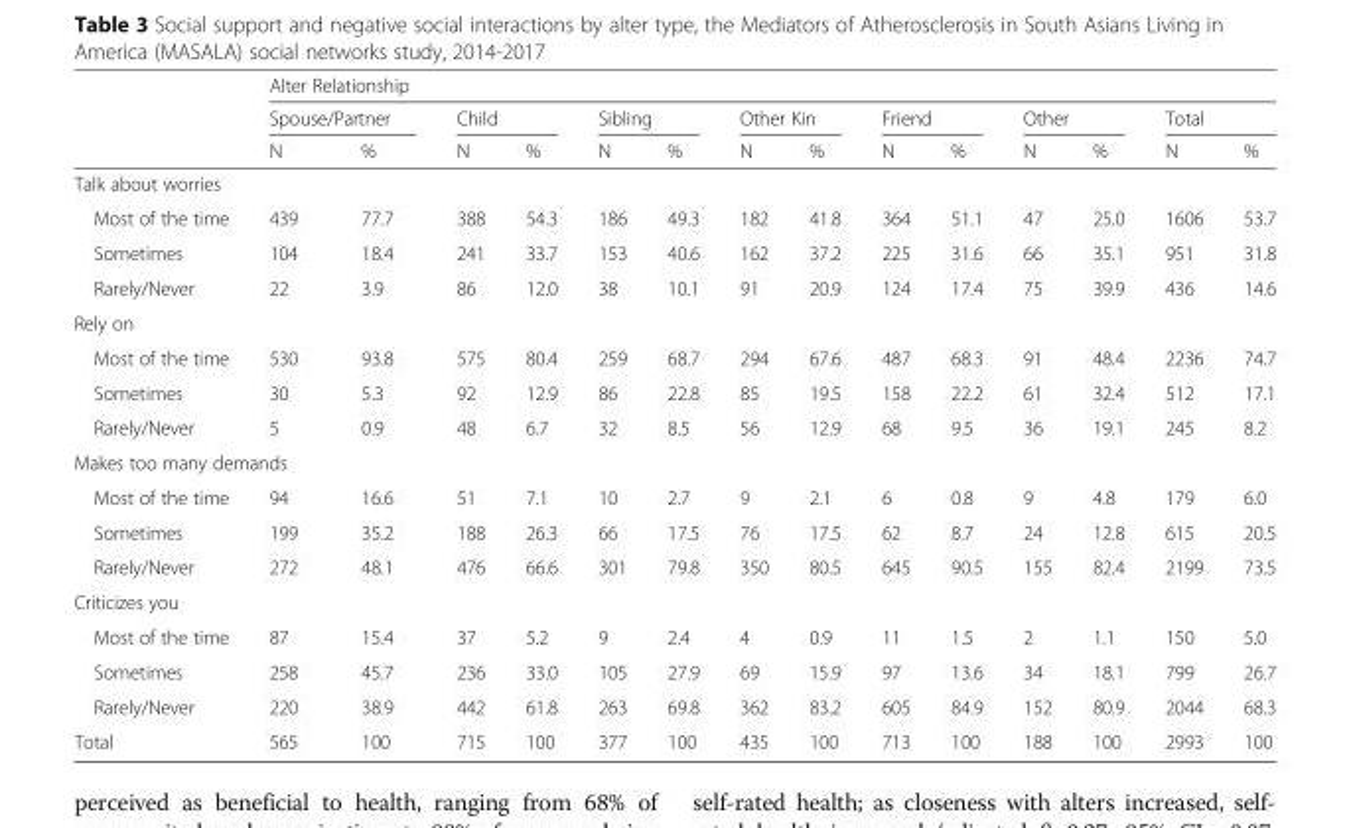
<table><thead><tr><td rowspan="3"></td><td colspan="14">Alter Relationship</td></tr><tr><td colspan="2">Spouse/Partner</td><td colspan="2">Child</td><td colspan="2">Sibling</td><td colspan="2">Other Kin</td><td colspan="2">Friend</td><td colspan="2">Other</td><td colspan="2">Total</td></tr><tr><td>N</td><td>%</td><td>N</td><td>%</td><td>N</td><td>%</td><td>N</td><td>%</td><td>N</td><td>%</td><td>N</td><td>%</td><td>N</td><td>%</td></tr></thead><tbody><tr><td colspan="15">Talk about worries</td></tr><tr><td>Most of the time</td><td>439</td><td>77.7</td><td>388</td><td>54.3</td><td>186</td><td>49.3</td><td>182</td><td>41.8</td><td>364</td><td>51.1</td><td>47</td><td>25.0</td><td>1606</td><td>53.7</td></tr><tr><td>Sometimes</td><td>104</td><td>18.4</td><td>241</td><td>33.7</td><td>153</td><td>40.6</td><td>162</td><td>37.2</td><td>225</td><td>31.6</td><td>66</td><td>35.1</td><td>951</td><td>31.8</td></tr><tr><td>Rarely/Never</td><td>22</td><td>3.9</td><td>86</td><td>12.0</td><td>38</td><td>10.1</td><td>91</td><td>20.9</td><td>124</td><td>17.4</td><td>75</td><td>39.9</td><td>436</td><td>14.6</td></tr><tr><td colspan="15">Rely on</td></tr><tr><td>Most of the time</td><td>530</td><td>93.8</td><td>575</td><td>80.4</td><td>259</td><td>68.7</td><td>294</td><td>67.6</td><td>487</td><td>68.3</td><td>91</td><td>48.4</td><td>2236</td><td>74.7</td></tr><tr><td>Sometimes</td><td>30</td><td>5.3</td><td>92</td><td>12.9</td><td>86</td><td>22.8</td><td>85</td><td>19.5</td><td>158</td><td>22.2</td><td>61</td><td>32.4</td><td>512</td><td>17.1</td></tr><tr><td>Rarely/Never</td><td>5</td><td>0.9</td><td>48</td><td>6.7</td><td>32</td><td>8.5</td><td>56</td><td>12.9</td><td>68</td><td>9.5</td><td>36</td><td>19.1</td><td>245</td><td>8.2</td></tr><tr><td colspan="15">Makes too many demands</td></tr><tr><td>Most of the time</td><td>94</td><td>16.6</td><td>51</td><td>7.1</td><td>10</td><td>2.7</td><td>9</td><td>2.1</td><td>6</td><td>0.8</td><td>9</td><td>4.8</td><td>179</td><td>6.0</td></tr><tr><td>Sometimes</td><td>199</td><td>35.2</td><td>188</td><td>26.3</td><td>66</td><td>17.5</td><td>76</td><td>17.5</td><td>62</td><td>8.7</td><td>24</td><td>12.8</td><td>615</td><td>20.5</td></tr><tr><td>Rarely/Never</td><td>272</td><td>48.1</td><td>476</td><td>66.6</td><td>301</td><td>79.8</td><td>350</td><td>80.5</td><td>645</td><td>90.5</td><td>155</td><td>82.4</td><td>2199</td><td>73.5</td></tr><tr><td colspan="15">Criticizes you</td></tr><tr><td>Most of the time</td><td>87</td><td>15.4</td><td>37</td><td>5.2</td><td>9</td><td>2.4</td><td>4</td><td>0.9</td><td>11</td><td>1.5</td><td>2</td><td>1.1</td><td>150</td><td>5.0</td></tr><tr><td>Sometimes</td><td>258</td><td>45.7</td><td>236</td><td>33.0</td><td>105</td><td>27.9</td><td>69</td><td>15.9</td><td>97</td><td>13.6</td><td>34</td><td>18.1</td><td>799</td><td>26.7</td></tr><tr><td>Rarely/Never</td><td>220</td><td>38.9</td><td>442</td><td>61.8</td><td>263</td><td>69.8</td><td>362</td><td>83.2</td><td>605</td><td>84.9</td><td>152</td><td>80.9</td><td>2044</td><td>68.3</td></tr><tr><td>Total</td><td>565</td><td>100</td><td>715</td><td>100</td><td>377</td><td>100</td><td>435</td><td>100</td><td>713</td><td>100</td><td>188</td><td>100</td><td>2993</td><td>100</td></tr></tbody></table>